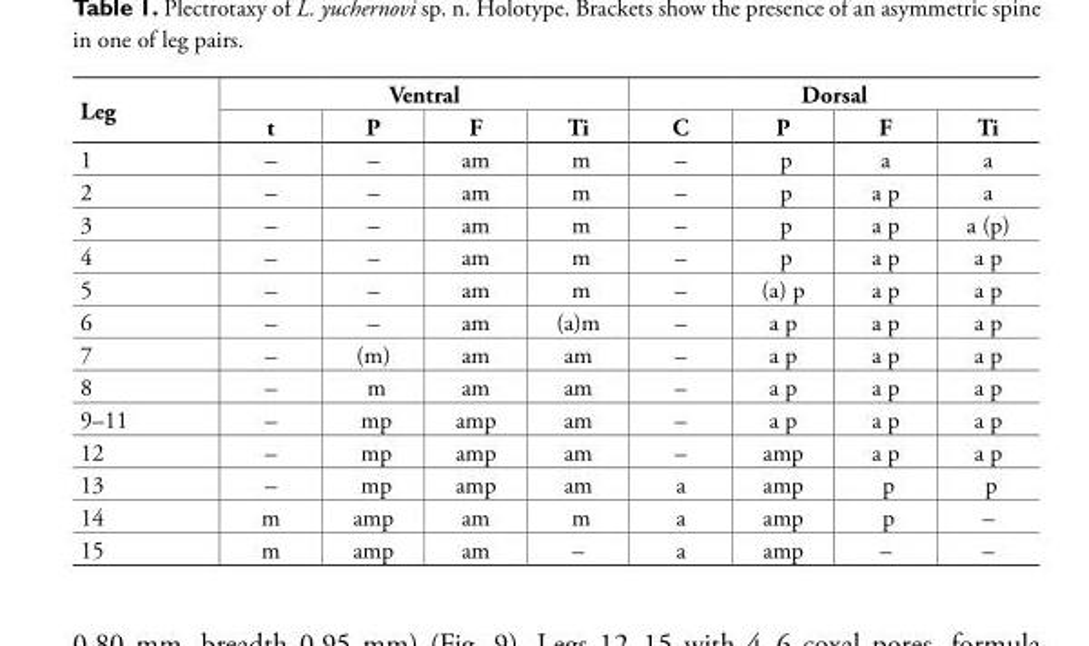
<table><tbody><tr><td rowspan="2">Leg</td><td colspan="4">Ventral</td><td colspan="4">Dorsal</td></tr><tr><td>t</td><td>P</td><td>F</td><td>Ti</td><td>C</td><td>P</td><td>F</td><td>Ti</td></tr><tr><td>1</td><td>–</td><td>–</td><td>am</td><td>m</td><td>–</td><td>p</td><td>a</td><td>a</td></tr><tr><td>2</td><td>–</td><td>–</td><td>am</td><td>m</td><td>–</td><td>p</td><td>a p</td><td>a</td></tr><tr><td>3</td><td>–</td><td>–</td><td>am</td><td>m</td><td>–</td><td>p</td><td>a p</td><td>a (p)</td></tr><tr><td>4</td><td>–</td><td>–</td><td>am</td><td>m</td><td>–</td><td>p</td><td>a p</td><td>a p</td></tr><tr><td>5</td><td>–</td><td>–</td><td>am</td><td>m</td><td>–</td><td>(a) p</td><td>a p</td><td>a p</td></tr><tr><td>6</td><td>–</td><td>–</td><td>am</td><td>(a)m</td><td>–</td><td>a p</td><td>a p</td><td>a p</td></tr><tr><td>7</td><td>–</td><td>(m)</td><td>am</td><td>am</td><td>–</td><td>a p</td><td>a p</td><td>a p</td></tr><tr><td>8</td><td>–</td><td>m</td><td>am</td><td>am</td><td>–</td><td>a p</td><td>a p</td><td>a p</td></tr><tr><td>9–11</td><td>–</td><td>mp</td><td>amp</td><td>am</td><td>–</td><td>a p</td><td>a p</td><td>a p</td></tr><tr><td>12</td><td>–</td><td>mp</td><td>amp</td><td>am</td><td>–</td><td>amp</td><td>a p</td><td>a p</td></tr><tr><td>13</td><td>–</td><td>mp</td><td>amp</td><td>am</td><td>a</td><td>amp</td><td>p</td><td>p</td></tr><tr><td>14</td><td>m</td><td>amp</td><td>am</td><td>m</td><td>a</td><td>amp</td><td>p</td><td>–</td></tr><tr><td>15</td><td>m</td><td>amp</td><td>am</td><td>–</td><td>a</td><td>amp</td><td>–</td><td>–</td></tr></tbody></table>